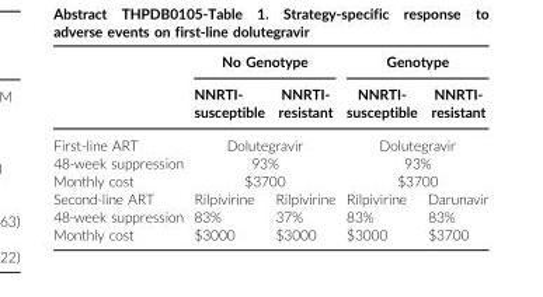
<table><thead><tr><td rowspan="2"></td><td colspan="2">No Genotype</td><td colspan="2">Genotype</td></tr><tr><td>NNRTI- susceptible</td><td>NNRTI- resistant</td><td>NNRTI- susceptible</td><td>NNRTI- resistant</td></tr></thead><tbody><tr><td>First-line ART</td><td colspan="2">Dolutegravir</td><td colspan="2">Dolutegravir</td></tr><tr><td>48-week suppression</td><td colspan="2">93%</td><td colspan="2">93%</td></tr><tr><td>Monthly cost</td><td colspan="2">$3700</td><td colspan="2">$3700</td></tr><tr><td>Second-line ART</td><td>Rilpivirine</td><td>Rilpivirine</td><td>Rilpivirine</td><td>Darunavir</td></tr><tr><td>48-week suppression</td><td>83%</td><td>37%</td><td>83%</td><td>83%</td></tr><tr><td>Monthly cost</td><td>$3000</td><td>$3000</td><td>$3000</td><td>$3700</td></tr></tbody></table>